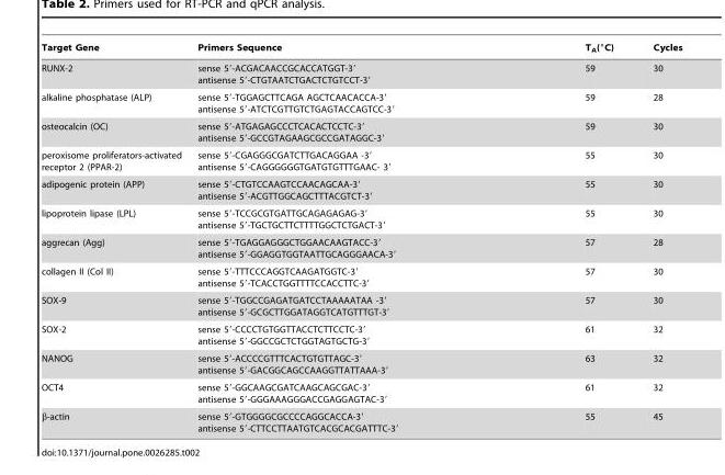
<table><thead><tr><td>Target Gene</td><td>Primers Sequence</td><td>T<sub>A</sub>(°C)</td><td>Cycles</td></tr></thead><tbody><tr><td>RUNX-2</td><td>sense 5′-ACGACAACCGCACCATGGT-3′ antisense 5′-CTGTAATCTGACTCTGTCCT-3′</td><td>59</td><td>30</td></tr><tr><td>alkaline phosphatase (ALP)</td><td>sense 5′-TGGAGCTTCAGA AGCTCAACACCA-3′ antisense 5′-ATCTCGTTGTCTGAGTACCAGTCC-3′</td><td>59</td><td>28</td></tr><tr><td>osteocalcin (OC)</td><td>sense 5′-ATGAGAGCCCTCACACTCCTC-3′ antisense 5′-GCCGTAGAAGCGCCGATAGGC-3′</td><td>59</td><td>30</td></tr><tr><td>peroxisome proliferators-activated receptor 2 (PPAR-2)</td><td>sense 5′-CGAGGGCGATCTTGACAGGAA -3′ antisense 5′-CAGGGGGGTGATGTGTTTGAAC- 3′</td><td>55</td><td>30</td></tr><tr><td>adipogenic protein (APP)</td><td>sense 5′-CTGTCCAAGTCCAACAGCAA-3′ antisense 5′-ACGTTGGCAGCTTTACGTCT-3′</td><td>55</td><td>30</td></tr><tr><td>lipoprotein lipase (LPL)</td><td>sense 5′-TCCGCGTGATTGCAGAGAGAG-3′ antisense 5′-TGCTGCTTCTTTTGGCTCTGACT-3′</td><td>55</td><td>30</td></tr><tr><td>aggrecan (Agg)</td><td>sense 5′-TGAGGAGGGCTGGAACAAGTACC-3′ antisense 5′-GGAGGTGGTAATTGCAGGGAACA-3′</td><td>57</td><td>28</td></tr><tr><td>collagen II (Col II)</td><td>sense 5′-TTTCCCAGGTCAAGATGGTC-3′ antisense 5′-TCACCTGGTTTTCCACCTTC-3′</td><td>57</td><td>30</td></tr><tr><td>SOX-9</td><td>sense 5′-TGGCCGAGATGATCCTAAAAATAA -3′ antisense 5′-GCGCTTGGATAGGTCATGTTTGT-3′</td><td>57</td><td>30</td></tr><tr><td>SOX-2</td><td>sense 5′-CCCCTGTGGTTACCTCTTCCTC-3′ antisense 5′-GGCCGCTCTGGTAGTGCTG-3′</td><td>61</td><td>32</td></tr><tr><td>NANOG</td><td>sense 5′-ACCCCGTTTCACTGTGTTAGC-3′ antisense 5′-GACGGCAGCCAAGGTTATTAAA-3′</td><td>63</td><td>32</td></tr><tr><td>OCT4</td><td>sense 5′-GGCAAGCGATCAAGCAGCGAC-3′ antisense 5′-GGGAAAGGGACCGAGGAGTAC-3′</td><td>61</td><td>32</td></tr><tr><td>β-actin</td><td>sense 5′-GTGGGGCGCCCCAGGCACCA-3′ antisense 5′-CTTCCTTAATGTCACGCACGATTTC-3′</td><td>55</td><td>45</td></tr></tbody></table>